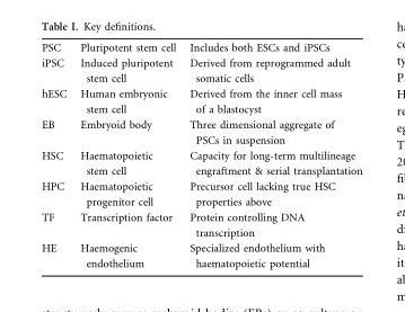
<table><tbody><tr><td>PSC</td><td>Pluripotent stem cell</td><td>Includes both ESCs and iPSCs</td></tr><tr><td>iPSC</td><td>Induced pluripotent stem cell</td><td>Derived from reprogrammed adult somatic cells</td></tr><tr><td>hESC</td><td>Human embryonic stem cell</td><td>Derived from the inner cell mass of a blastocyst</td></tr><tr><td>EB</td><td>Embryoid body</td><td>Three dimensional aggregate of PSCs in suspension</td></tr><tr><td>HSC</td><td>Haematopoietic stem cell</td><td>Capacity for long-term multilineage engraftment &amp; serial transplantation</td></tr><tr><td>HPC</td><td>Haematopoietic progenitor cell</td><td>Precursor cell lacking true HSC properties above</td></tr><tr><td>TF</td><td>Transcription factor</td><td>Protein controlling DNA transcription</td></tr><tr><td>HE</td><td>Haemogenic endothelium</td><td>Specialized endothelium with haematopoietic potential</td></tr></tbody></table>